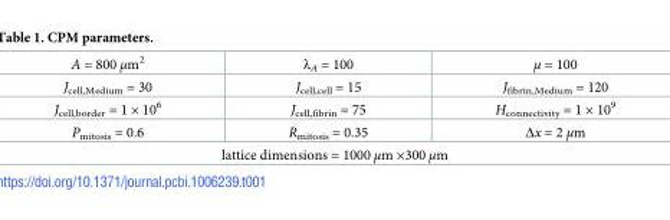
<table><tbody><tr><td>A = 800 μm<sup>2</sup></td><td>λ<sub>A</sub> = 100</td><td>μ = 100</td></tr><tr><td>J<sub>cell,Medium</sub> = 30</td><td>J<sub>cell,cell</sub> = 15</td><td>J<sub>fibrin,Medium</sub> = 120</td></tr><tr><td>J<sub>cell,border</sub> = 1 × 10<sup>6</sup></td><td>J<sub>cell,fibrin</sub> = 75</td><td>H<sub>connectivity</sub> = 1 × 10<sup>9</sup></td></tr><tr><td>P<sub>mitosis</sub> = 0.6</td><td>R<sub>mitosis</sub> = 0.35</td><td>Δx = 2 μm</td></tr><tr><td colspan="3">lattice dimensions = 1000 μm ×300 μm</td></tr></tbody></table>